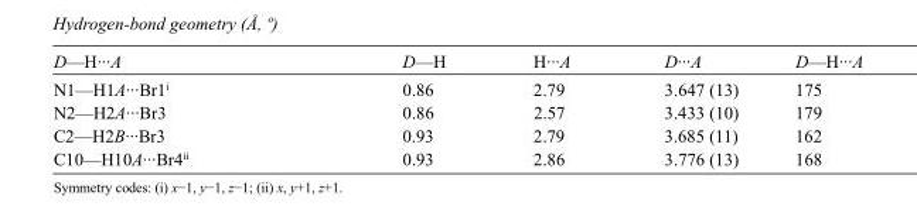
<table><tbody><tr><td>D—H···A</td><td>D—H</td><td>H···A</td><td>D···A</td><td>D—H···A</td></tr><tr><td>N1—H1A···Br1<sup>i</sup></td><td>0.86</td><td>2.79</td><td>3.647 (13)</td><td>175</td></tr><tr><td>N2—H2A···Br3</td><td>0.86</td><td>2.57</td><td>3.433 (10)</td><td>179</td></tr><tr><td>C2—H2B···Br3</td><td>0.93</td><td>2.79</td><td>3.685 (11)</td><td>162</td></tr><tr><td>C10—H10A···Br4<sup>ii</sup></td><td>0.93</td><td>2.86</td><td>3.776 (13)</td><td>168</td></tr></tbody></table>